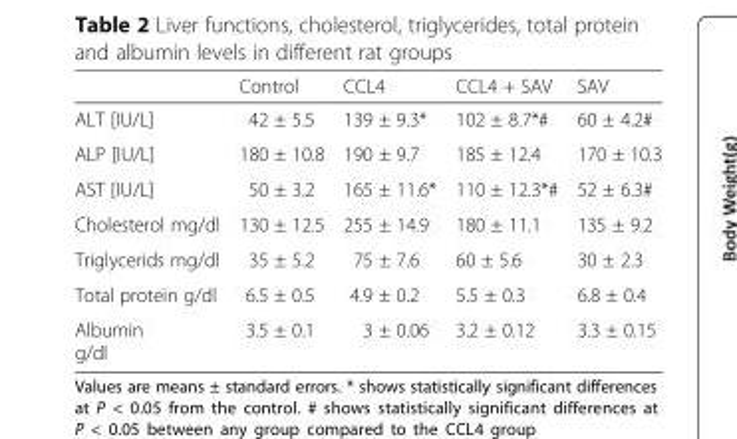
<table><thead><tr><td></td><td>Control</td><td>CCL4</td><td>CCL4 + SAV</td><td>SAV</td></tr></thead><tbody><tr><td>ALT [IU/L]</td><td>42 ± 5.5</td><td>139 ± 9.3*</td><td>102 ± 8.7*#</td><td>60 ± 4.2#</td></tr><tr><td>ALP [IU/L]</td><td>180 ± 10.8</td><td>190 ± 9.7</td><td>185 ± 12.4</td><td>170 ± 10.3</td></tr><tr><td>AST [IU/L]</td><td>50 ± 3.2</td><td>165 ± 11.6*</td><td>110 ± 12.3*#</td><td>52 ± 6.3#</td></tr><tr><td>Cholesterol mg/dl</td><td>130 ± 12.5</td><td>255 ± 14.9</td><td>180 ± 11.1</td><td>135 ± 9.2</td></tr><tr><td>Triglycerids mg/dl</td><td>35 ± 5.2</td><td>75 ± 7.6</td><td>60 ± 5.6</td><td>30 ± 2.3</td></tr><tr><td>Total protein g/dl</td><td>6.5 ± 0.5</td><td>4.9 ± 0.2</td><td>5.5 ± 0.3</td><td>6.8 ± 0.4</td></tr><tr><td>Albumin g/dl</td><td>3.5 ± 0.1</td><td>3 ± 0.06</td><td>3.2 ± 0.12</td><td>3.3 ± 0.15</td></tr></tbody></table>